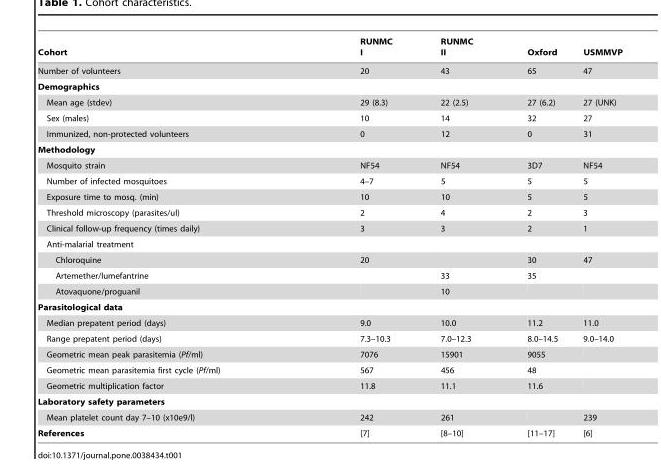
<table><thead><tr><td>Cohort</td><td>RUNMC I</td><td>RUNMC II</td><td>Oxford</td><td>USMMVP</td></tr></thead><tbody><tr><td>Number of volunteers</td><td>20</td><td>43</td><td>65</td><td>47</td></tr><tr><td colspan="5">Demographics</td></tr><tr><td>Mean age (stdev)</td><td>29 (8.3)</td><td>22 (2.5)</td><td>27 (6.2)</td><td>27 (UNK)</td></tr><tr><td>Sex (males)</td><td>10</td><td>14</td><td>32</td><td>27</td></tr><tr><td>Immunized, non-protected volunteers</td><td>0</td><td>12</td><td>0</td><td>31</td></tr><tr><td colspan="5">Methodology</td></tr><tr><td>Mosquito strain</td><td>NF54</td><td>NF54</td><td>3D7</td><td>NF54</td></tr><tr><td>Number of infected mosquitoes</td><td>4–7</td><td>5</td><td>5</td><td>5</td></tr><tr><td>Exposure time to mosq. (min)</td><td>10</td><td>10</td><td>5</td><td>5</td></tr><tr><td>Threshold microscopy (parasites/ul)</td><td>2</td><td>4</td><td>2</td><td>3</td></tr><tr><td>Clinical follow-up frequency (times daily)</td><td>3</td><td>3</td><td>2</td><td>1</td></tr><tr><td colspan="5">Anti-malarial treatment</td></tr><tr><td>Chloroquine</td><td>20</td><td></td><td>30</td><td>47</td></tr><tr><td>Artemether/lumefantrine</td><td></td><td>33</td><td>35</td><td></td></tr><tr><td>Atovaquone/proguanil</td><td></td><td>10</td><td></td><td></td></tr><tr><td colspan="5">Parasitological data</td></tr><tr><td>Median prepatent period (days)</td><td>9.0</td><td>10.0</td><td>11.2</td><td>11.0</td></tr><tr><td>Range prepatent period (days)</td><td>7.3–10.3</td><td>7.0–12.3</td><td>8.0–14.5</td><td>9.0–14.0</td></tr><tr><td>Geometric mean peak parasitemia (Pf/ml)</td><td>7076</td><td>15901</td><td>9055</td><td></td></tr><tr><td>Geometric mean parasitemia first cycle (Pf/ml)</td><td>567</td><td>456</td><td>48</td><td></td></tr><tr><td>Geometric multiplication factor</td><td>11.8</td><td>11.1</td><td>11.6</td><td></td></tr><tr><td colspan="5">Laboratory safety parameters</td></tr><tr><td>Mean platelet count day 7–10 (x10e9/l)</td><td>242</td><td>261</td><td></td><td>239</td></tr><tr><td>References</td><td>[7]</td><td>[8–10]</td><td>[11–17]</td><td>[6]</td></tr></tbody></table>